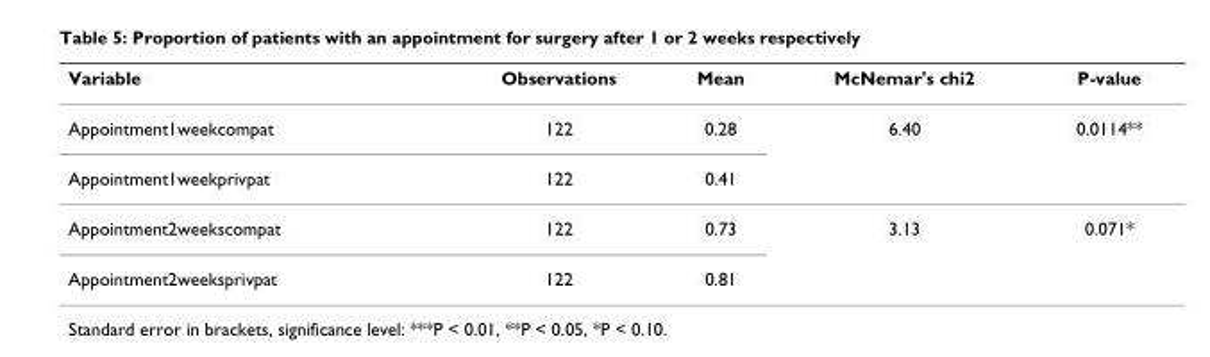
<table><thead><tr><td>Variable</td><td>Observations</td><td>Mean</td><td>McNemar&#x27;s chi2</td><td>P-value</td></tr></thead><tbody><tr><td>Appointment1weekcompat</td><td>122</td><td>0.28</td><td>6.40</td><td>0.0114**</td></tr><tr><td>Appointment1weekprivpat</td><td>122</td><td>0.41</td><td></td><td></td></tr><tr><td>Appointment2weekscompat</td><td>122</td><td>0.73</td><td>3.13</td><td>0.071*</td></tr><tr><td>Appointment2weeksprivpat</td><td>122</td><td>0.81</td><td></td><td></td></tr></tbody></table>